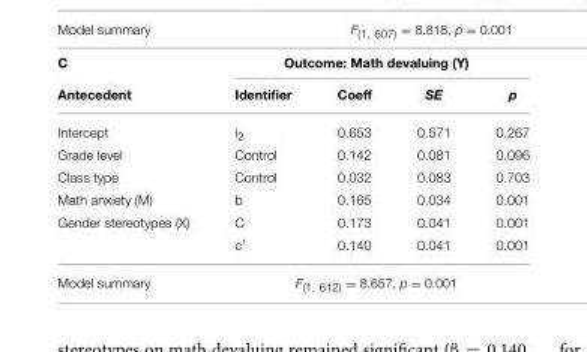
<table><thead><tr><td rowspan="2">C Antecedent</td><td colspan="4">Outcome: Math devaluing (Y)</td></tr><tr><td>Identifier</td><td>Coeff</td><td>SE</td><td>p</td></tr></thead><tbody><tr><td>Intercept</td><td>i<sub>2</sub></td><td>0.653</td><td>0.571</td><td>0.267</td></tr><tr><td>Grade level</td><td>Control</td><td>0.142</td><td>0.081</td><td>0.096</td></tr><tr><td>Class type</td><td>Control</td><td>0.032</td><td>0.083</td><td>0.703</td></tr><tr><td>Math anxiety (M)</td><td>b</td><td>0.165</td><td>0.034</td><td>0.001</td></tr><tr><td rowspan="2">Gender stereotypes (X)</td><td>C</td><td>0.173</td><td>0.041</td><td>0.001</td></tr><tr><td>c′</td><td>0.140</td><td>0.041</td><td>0.001</td></tr><tr><td>Model summary</td><td colspan="4">F<sub>(1, 612)</sub> = 8.657, p = 0.001</td></tr></tbody></table>